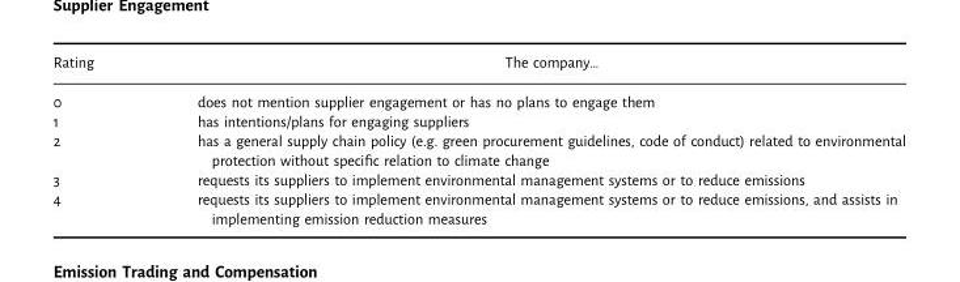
<table><thead><tr><td>Rating</td><td>The company…</td></tr></thead><tbody><tr><td>0</td><td>does not mention supplier engagement or has no plans to engage them</td></tr><tr><td>1</td><td>has intentions/plans for engaging suppliers</td></tr><tr><td>2</td><td>has a general supply chain policy (e.g. green procurement guidelines, code of conduct) related to environmental protection without specific relation to climate change</td></tr><tr><td>3</td><td>requests its suppliers to implement environmental management systems or to reduce emissions</td></tr><tr><td>4</td><td>requests its suppliers to implement environmental management systems or to reduce emissions, and assists in implementing emission reduction measures</td></tr></tbody></table>